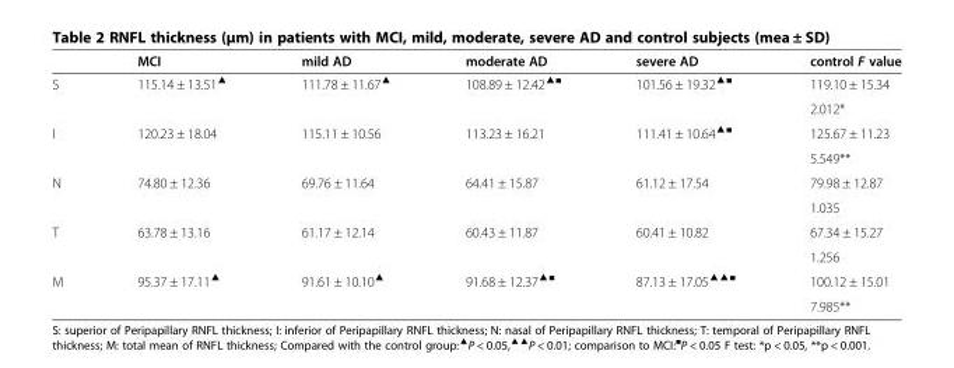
<table><thead><tr><td></td><td>MCI</td><td>mild AD</td><td>moderate AD</td><td>severe AD</td><td>control F value</td></tr></thead><tbody><tr><td rowspan="2">S</td><td rowspan="2">115.14 ± 13.51<sup>▲</sup></td><td rowspan="2">111.78 ± 11.67<sup>▲</sup></td><td rowspan="2">108.89 ± 12.42<sup>▲■</sup></td><td rowspan="2">101.56 ± 19.32<sup>▲■</sup></td><td>119.10 ± 15.34</td></tr><tr><td>2.012*</td></tr><tr><td rowspan="2">I</td><td rowspan="2">120.23 ± 18.04</td><td rowspan="2">115.11 ± 10.56</td><td rowspan="2">113.23 ± 16.21</td><td rowspan="2">111.41 ± 10.64<sup>▲■</sup></td><td>125.67 ± 11.23</td></tr><tr><td>5.549**</td></tr><tr><td rowspan="2">N</td><td rowspan="2">74.80 ± 12.36</td><td rowspan="2">69.76 ± 11.64</td><td rowspan="2">64.41 ± 15.87</td><td rowspan="2">61.12 ± 17.54</td><td>79.98 ± 12.87</td></tr><tr><td>1.035</td></tr><tr><td rowspan="2">T</td><td rowspan="2">63.78 ± 13.16</td><td rowspan="2">61.17 ± 12.14</td><td rowspan="2">60.43 ± 11.87</td><td rowspan="2">60.41 ± 10.82</td><td>67.34 ± 15.27</td></tr><tr><td>1.256</td></tr><tr><td rowspan="2">M</td><td rowspan="2">95.37 ± 17.11<sup>▲</sup></td><td rowspan="2">91.61 ± 10.10<sup>▲</sup></td><td rowspan="2">91.68 ± 12.37<sup>▲■</sup></td><td rowspan="2">87.13 ± 17.05<sup>▲▲■</sup></td><td>100.12 ± 15.01</td></tr><tr><td>7.985**</td></tr></tbody></table>